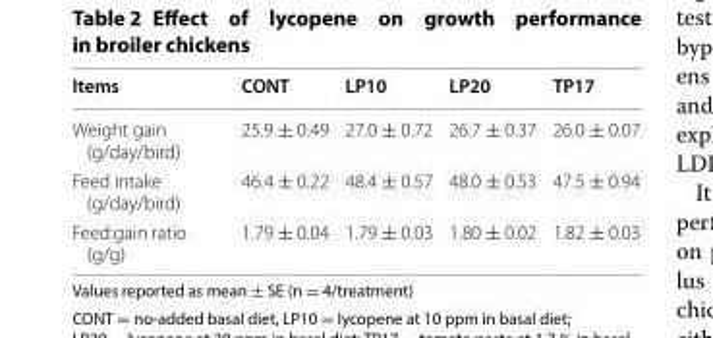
<table><thead><tr><td>Items</td><td>CONT</td><td>LP10</td><td>LP20</td><td>TP17</td></tr></thead><tbody><tr><td>Weight gain (g/day/bird)</td><td>25.9 ± 0.49</td><td>27.0 ± 0.72</td><td>26.7 ± 0.37</td><td>26.0 ± 0.07</td></tr><tr><td>Feed intake (g/day/bird)</td><td>46.4 ± 0.22</td><td>48.4 ± 0.57</td><td>48.0 ± 0.53</td><td>47.5 ± 0.94</td></tr><tr><td>Feed:gain ratio (g/g)</td><td>1.79 ± 0.04</td><td>1.79 ± 0.03</td><td>1.80 ± 0.02</td><td>1.82 ± 0.03</td></tr></tbody></table>